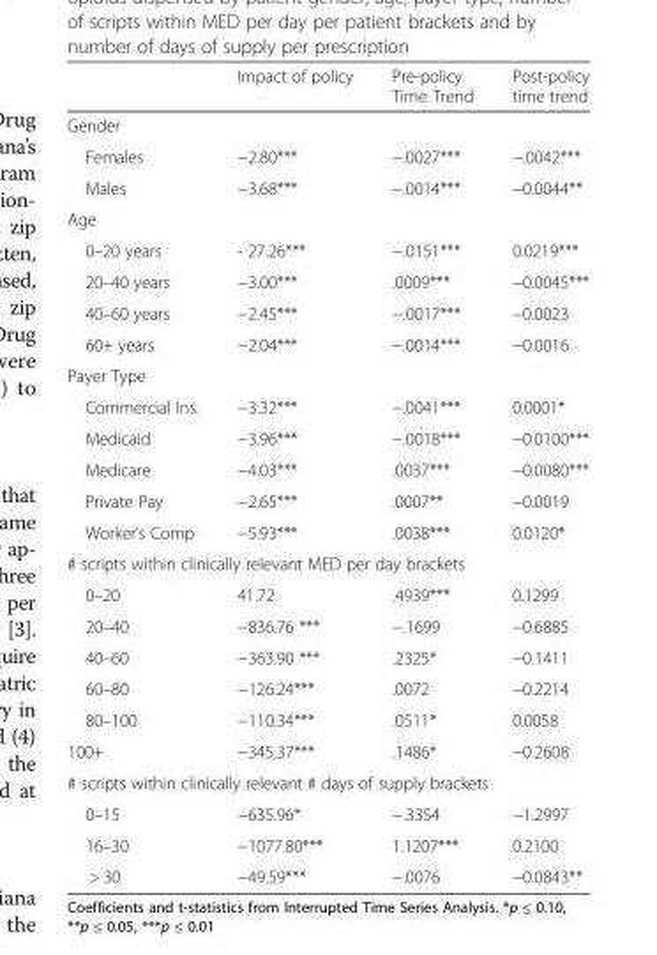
<table><thead><tr><td></td><td>Impact of policy</td><td>Pre-policy Time Trend</td><td>Post-policy time trend</td></tr></thead><tbody><tr><td colspan="4">Gender</td></tr><tr><td>Females</td><td>−2.80***</td><td>−.0027***</td><td>−.0042***</td></tr><tr><td>Males</td><td>−3.68***</td><td>−.0014***</td><td>−0.0044**</td></tr><tr><td colspan="4">Age</td></tr><tr><td>0–20 years</td><td>- 27.26***</td><td>−.0151***</td><td>0.0219***</td></tr><tr><td>20–40 years</td><td>−3.00***</td><td>.0009***</td><td>−0.0045***</td></tr><tr><td>40–60 years</td><td>−2.45***</td><td>−.0017***</td><td>−0.0023</td></tr><tr><td>60+ years</td><td>−2.04***</td><td>−.0014***</td><td>−0.0016</td></tr><tr><td colspan="4">Payer Type</td></tr><tr><td>Commercial Ins.</td><td>−3.32***</td><td>−.0041***</td><td>0.0001*</td></tr><tr><td>Medicaid</td><td>−3.96***</td><td>−.0018***</td><td>−0.0100***</td></tr><tr><td>Medicare</td><td>−4.03***</td><td>.0037***</td><td>−0.0080***</td></tr><tr><td>Private Pay</td><td>−2.65***</td><td>.0007**</td><td>−0.0019</td></tr><tr><td>Worker’s Comp</td><td>−5.93***</td><td>.0038***</td><td>0.0120*</td></tr><tr><td colspan="4"># scripts within clinically relevant MED per day brackets</td></tr><tr><td>0–20</td><td>41.72</td><td>.4939***</td><td>0.1299</td></tr><tr><td>20–40</td><td>−836.76 ***</td><td>−.1699</td><td>−0.6885</td></tr><tr><td>40–60</td><td>−363.90 ***</td><td>.2325*</td><td>−0.1411</td></tr><tr><td>60–80</td><td>−126.24***</td><td>.0072</td><td>−0.2214</td></tr><tr><td>80–100</td><td>−110.34***</td><td>.0511*</td><td>0.0058</td></tr><tr><td>100+</td><td>−345.37***</td><td>.1486*</td><td>−0.2608</td></tr><tr><td colspan="4"># scripts within clinically relevant # days of supply brackets</td></tr><tr><td>0–15</td><td>−635.96*</td><td>−.3354</td><td>−1.2997</td></tr><tr><td>16–30</td><td>−1077.80***</td><td>1.1207***</td><td>0.2100</td></tr><tr><td>&gt; 30</td><td>−49.59***</td><td>−.0076</td><td>−0.0843**</td></tr></tbody></table>